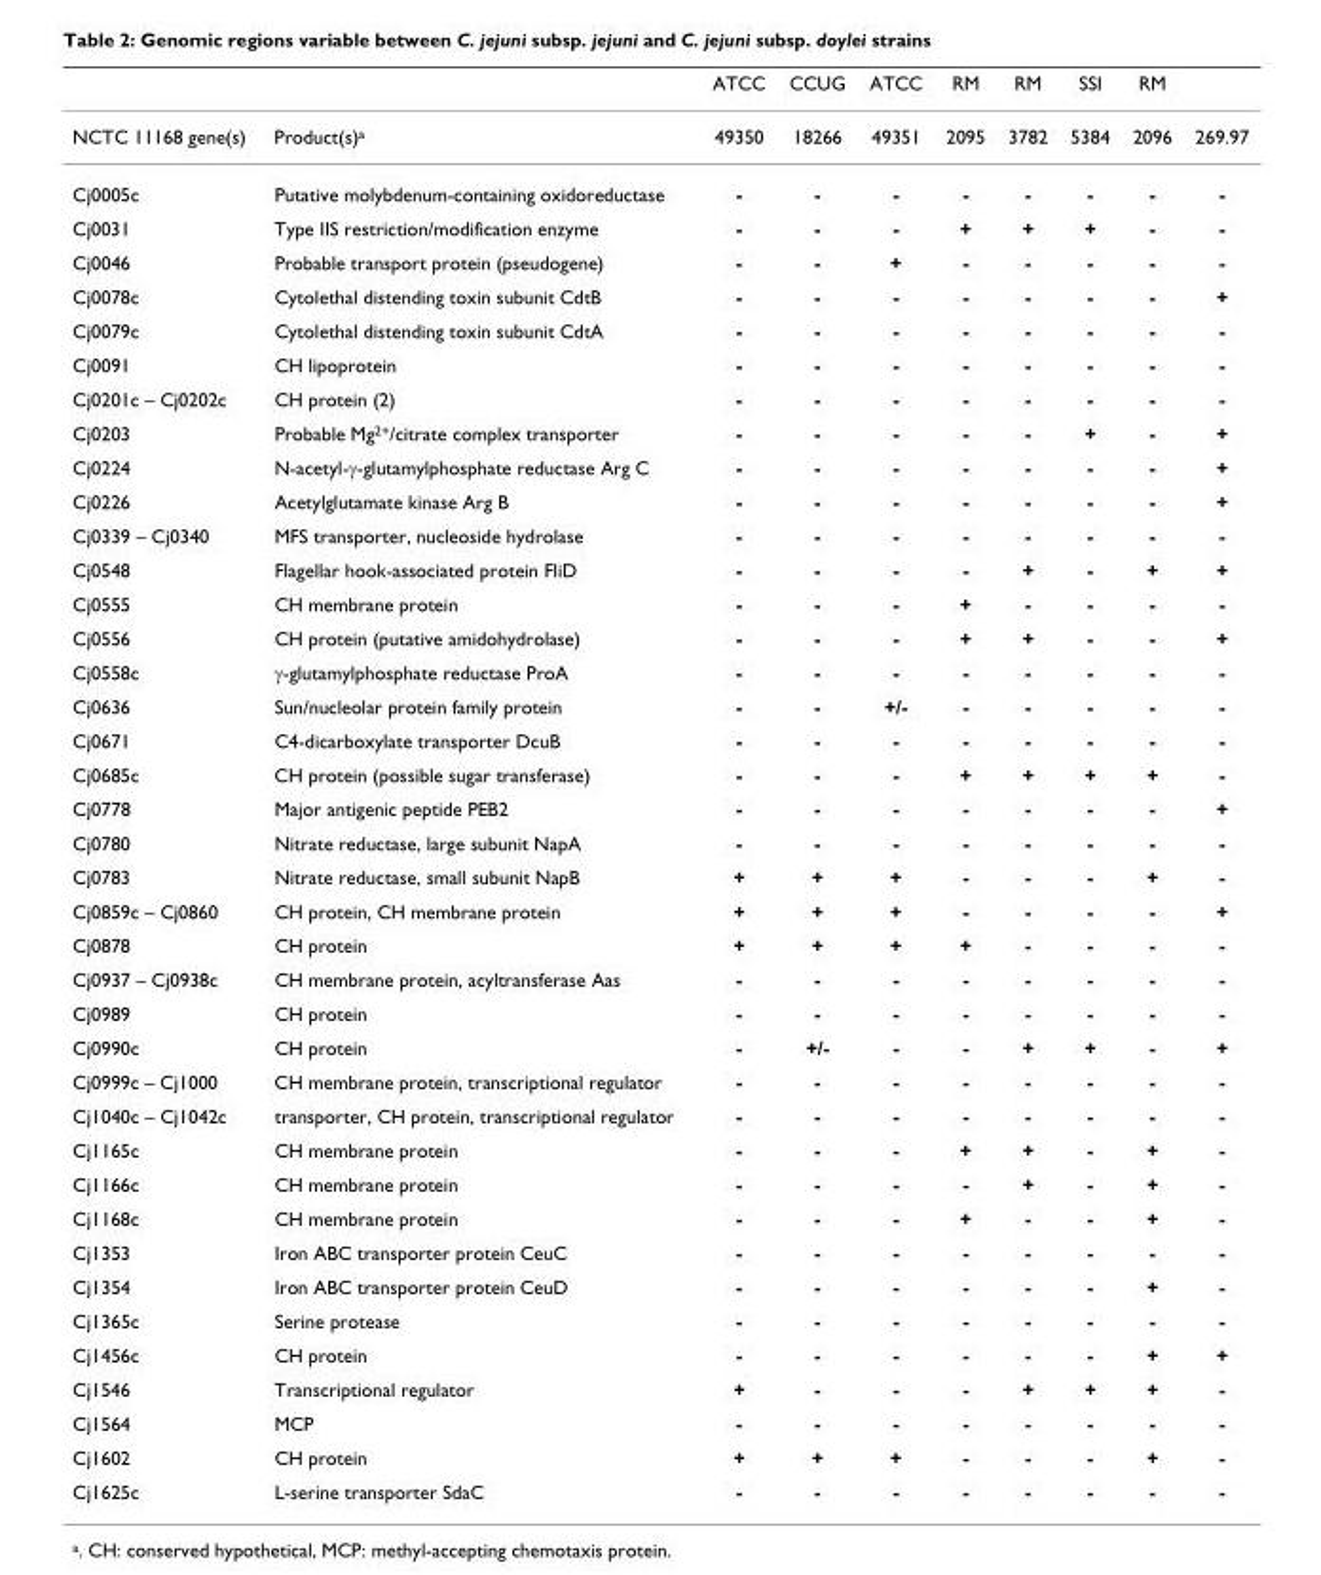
<table><thead><tr><td></td><td></td><td>ATCC</td><td>CCUG</td><td>ATCC</td><td>RM</td><td>RM</td><td>SSI</td><td>RM</td><td></td></tr></thead><tbody><tr><td>NCTC 11168 gene(s)</td><td>Product(s)a</td><td>49350</td><td>18266</td><td>49351</td><td>2095</td><td>3782</td><td>5384</td><td>2096</td><td>269.97</td></tr><tr><td>Cj0005c</td><td>Putative molybdenum-containing oxidoreductase</td><td>-</td><td>-</td><td>-</td><td>-</td><td>-</td><td>-</td><td>-</td><td>-</td></tr><tr><td>Cj0031</td><td>Type IIS restriction/modification enzyme</td><td>-</td><td>-</td><td>-</td><td>+</td><td>+</td><td>+</td><td>-</td><td>-</td></tr><tr><td>Cj0046</td><td>Probable transport protein (pseudogene)</td><td>-</td><td>-</td><td>+</td><td>-</td><td>-</td><td>-</td><td>-</td><td>-</td></tr><tr><td>Cj0078c</td><td>Cytolethal distending toxin subunit CdtB</td><td>-</td><td>-</td><td>-</td><td>-</td><td>-</td><td>-</td><td>-</td><td>+</td></tr><tr><td>Cj0079c</td><td>Cytolethal distending toxin subunit CdtA</td><td>-</td><td>-</td><td>-</td><td>-</td><td>-</td><td>-</td><td>-</td><td>-</td></tr><tr><td>Cj0091</td><td>CH lipoprotein</td><td>-</td><td>-</td><td>-</td><td>-</td><td>-</td><td>-</td><td>-</td><td>-</td></tr><tr><td>Cj0201c – Cj0202c</td><td>CH protein (2)</td><td>-</td><td>-</td><td>-</td><td>-</td><td>-</td><td>-</td><td>-</td><td>-</td></tr><tr><td>Cj0203</td><td>Probable Mg2+/citrate complex transporter</td><td>-</td><td>-</td><td>-</td><td>-</td><td>-</td><td>+</td><td>-</td><td>+</td></tr><tr><td>Cj0224</td><td>N-acetyl-γ-glutamylphosphate reductase Arg C</td><td>-</td><td>-</td><td>-</td><td>-</td><td>-</td><td>-</td><td>-</td><td>+</td></tr><tr><td>Cj0226</td><td>Acetylglutamate kinase Arg B</td><td>-</td><td>-</td><td>-</td><td>-</td><td>-</td><td>-</td><td>-</td><td>+</td></tr><tr><td>Cj0339 – Cj0340</td><td>MFS transporter, nucleoside hydrolase</td><td>-</td><td>-</td><td>-</td><td>-</td><td>-</td><td>-</td><td>-</td><td>-</td></tr><tr><td>Cj0548</td><td>Flagellar hook-associated protein FliD</td><td>-</td><td>-</td><td>-</td><td>-</td><td>+</td><td>-</td><td>+</td><td>+</td></tr><tr><td>Cj0555</td><td>CH membrane protein</td><td>-</td><td>-</td><td>-</td><td>+</td><td>-</td><td>-</td><td>-</td><td>-</td></tr><tr><td>Cj0556</td><td>CH protein (putative amidohydrolase)</td><td>-</td><td>-</td><td>-</td><td>+</td><td>+</td><td>-</td><td>-</td><td>+</td></tr><tr><td>Cj0558c</td><td>γ-glutamylphosphate reductase ProA</td><td>-</td><td>-</td><td>-</td><td>-</td><td>-</td><td>-</td><td>-</td><td>-</td></tr><tr><td>Cj0636</td><td>Sun/nucleolar protein family protein</td><td>-</td><td>-</td><td>+/-</td><td>-</td><td>-</td><td>-</td><td>-</td><td>-</td></tr><tr><td>Cj0671</td><td>C4-dicarboxylate transporter DcuB</td><td>-</td><td>-</td><td>-</td><td>-</td><td>-</td><td>-</td><td>-</td><td>-</td></tr><tr><td>Cj0685c</td><td>CH protein (possible sugar transferase)</td><td>-</td><td>-</td><td>-</td><td>+</td><td>+</td><td>+</td><td>+</td><td>-</td></tr><tr><td>Cj0778</td><td>Major antigenic peptide PEB2</td><td>-</td><td>-</td><td>-</td><td>-</td><td>-</td><td>-</td><td>-</td><td>+</td></tr><tr><td>Cj0780</td><td>Nitrate reductase, large subunit NapA</td><td>-</td><td>-</td><td>-</td><td>-</td><td>-</td><td>-</td><td>-</td><td>-</td></tr><tr><td>Cj0783</td><td>Nitrate reductase, small subunit NapB</td><td>+</td><td>+</td><td>+</td><td>-</td><td>-</td><td>-</td><td>+</td><td>-</td></tr><tr><td>Cj0859c – Cj0860</td><td>CH protein, CH membrane protein</td><td>+</td><td>+</td><td>+</td><td>-</td><td>-</td><td>-</td><td>-</td><td>+</td></tr><tr><td>Cj0878</td><td>CH protein</td><td>+</td><td>+</td><td>+</td><td>+</td><td>-</td><td>-</td><td>-</td><td>-</td></tr><tr><td>Cj0937 – Cj0938c</td><td>CH membrane protein, acyltransferase Aas</td><td>-</td><td>-</td><td>-</td><td>-</td><td>-</td><td>-</td><td>-</td><td>-</td></tr><tr><td>Cj0989</td><td>CH protein</td><td>-</td><td>-</td><td>-</td><td>-</td><td>-</td><td>-</td><td>-</td><td>-</td></tr><tr><td>Cj0990c</td><td>CH protein</td><td>-</td><td>+/-</td><td>-</td><td>-</td><td>+</td><td>+</td><td>-</td><td>+</td></tr><tr><td>Cj0999c – Cj1000</td><td>CH membrane protein, transcriptional regulator</td><td>-</td><td>-</td><td>-</td><td>-</td><td>-</td><td>-</td><td>-</td><td>-</td></tr><tr><td>Cj1040c – Cj1042c</td><td>transporter, CH protein, transcriptional regulator</td><td>-</td><td>-</td><td>-</td><td>-</td><td>-</td><td>-</td><td>-</td><td>-</td></tr><tr><td>Cj1165c</td><td>CH membrane protein</td><td>-</td><td>-</td><td>-</td><td>+</td><td>+</td><td>-</td><td>+</td><td>-</td></tr><tr><td>Cj1166c</td><td>CH membrane protein</td><td>-</td><td>-</td><td>-</td><td>-</td><td>+</td><td>-</td><td>+</td><td>-</td></tr><tr><td>Cj1168c</td><td>CH membrane protein</td><td>-</td><td>-</td><td>-</td><td>+</td><td>-</td><td>-</td><td>+</td><td>-</td></tr><tr><td>Cj1353</td><td>Iron ABC transporter protein CeuC</td><td>-</td><td>-</td><td>-</td><td>-</td><td>-</td><td>-</td><td>-</td><td>-</td></tr><tr><td>Cj1354</td><td>Iron ABC transporter protein CeuD</td><td>-</td><td>-</td><td>-</td><td>-</td><td>-</td><td>-</td><td>+</td><td>-</td></tr><tr><td>Cj1365c</td><td>Serine protease</td><td>-</td><td>-</td><td>-</td><td>-</td><td>-</td><td>-</td><td>-</td><td>-</td></tr><tr><td>Cj1456c</td><td>CH protein</td><td>-</td><td>-</td><td>-</td><td>-</td><td>-</td><td>-</td><td>+</td><td>+</td></tr><tr><td>Cj1546</td><td>Transcriptional regulator</td><td>+</td><td>-</td><td>-</td><td>-</td><td>+</td><td>+</td><td>+</td><td>-</td></tr><tr><td>Cj1564</td><td>MCP</td><td>-</td><td>-</td><td>-</td><td>-</td><td>-</td><td>-</td><td>-</td><td>-</td></tr><tr><td>Cj1602</td><td>CH protein</td><td>+</td><td>+</td><td>+</td><td>-</td><td>-</td><td>-</td><td>+</td><td>-</td></tr><tr><td>Cj1625c</td><td>L-serine transporter SdaC</td><td>-</td><td>-</td><td>-</td><td>-</td><td>-</td><td>-</td><td>-</td><td>-</td></tr></tbody></table>